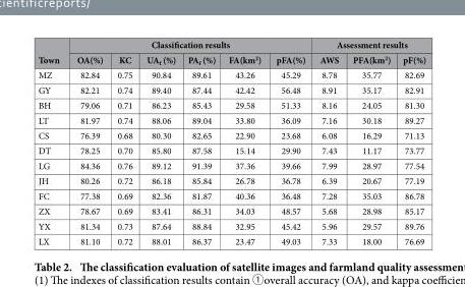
<table><thead><tr><td rowspan="2">Town</td><td colspan="6">Classification results</td><td colspan="3">Assessment results</td></tr><tr><td>OA(%)</td><td>KC</td><td>UA<sub>f</sub> (%)</td><td>PA<sub>f</sub> (%)</td><td>FA(km<sup>2</sup>)</td><td>pFA(%)</td><td>AWS</td><td>PFA(km<sup>2</sup>)</td><td>pF(%)</td></tr></thead><tbody><tr><td>MZ</td><td>82.84</td><td>0.75</td><td>90.84</td><td>89.61</td><td>43.26</td><td>45.29</td><td>8.78</td><td>35.77</td><td>82.69</td></tr><tr><td>GY</td><td>82.21</td><td>0.74</td><td>89.40</td><td>87.44</td><td>42.42</td><td>56.48</td><td>8.91</td><td>35.17</td><td>82.91</td></tr><tr><td>BH</td><td>79.06</td><td>0.71</td><td>86.23</td><td>85.43</td><td>29.58</td><td>51.33</td><td>8.16</td><td>24.05</td><td>81.30</td></tr><tr><td>LT</td><td>81.97</td><td>0.74</td><td>88.06</td><td>89.04</td><td>33.80</td><td>36.09</td><td>7.16</td><td>30.18</td><td>89.27</td></tr><tr><td>CS</td><td>76.39</td><td>0.68</td><td>80.30</td><td>82.65</td><td>22.90</td><td>23.68</td><td>6.08</td><td>16.29</td><td>71.13</td></tr><tr><td>DT</td><td>78.25</td><td>0.70</td><td>85.80</td><td>87.58</td><td>15.14</td><td>29.90</td><td>7.43</td><td>11.17</td><td>73.77</td></tr><tr><td>LG</td><td>84.36</td><td>0.76</td><td>89.12</td><td>91.39</td><td>37.36</td><td>39.66</td><td>7.99</td><td>28.97</td><td>77.54</td></tr><tr><td>JH</td><td>80.26</td><td>0.72</td><td>86.18</td><td>85.84</td><td>26.78</td><td>36.78</td><td>6.39</td><td>20.67</td><td>77.19</td></tr><tr><td>FC</td><td>77.38</td><td>0.69</td><td>82.36</td><td>81.87</td><td>40.36</td><td>36.48</td><td>7.28</td><td>35.03</td><td>86.78</td></tr><tr><td>ZX</td><td>78.67</td><td>0.69</td><td>83.41</td><td>86.31</td><td>34.03</td><td>48.57</td><td>5.68</td><td>28.98</td><td>85.17</td></tr><tr><td>YX</td><td>81.34</td><td>0.73</td><td>87.64</td><td>88.84</td><td>32.95</td><td>45.42</td><td>5.96</td><td>29.57</td><td>89.76</td></tr><tr><td>LX</td><td>81.10</td><td>0.72</td><td>88.01</td><td>86.37</td><td>23.47</td><td>49.03</td><td>7.33</td><td>18.00</td><td>76.69</td></tr></tbody></table>